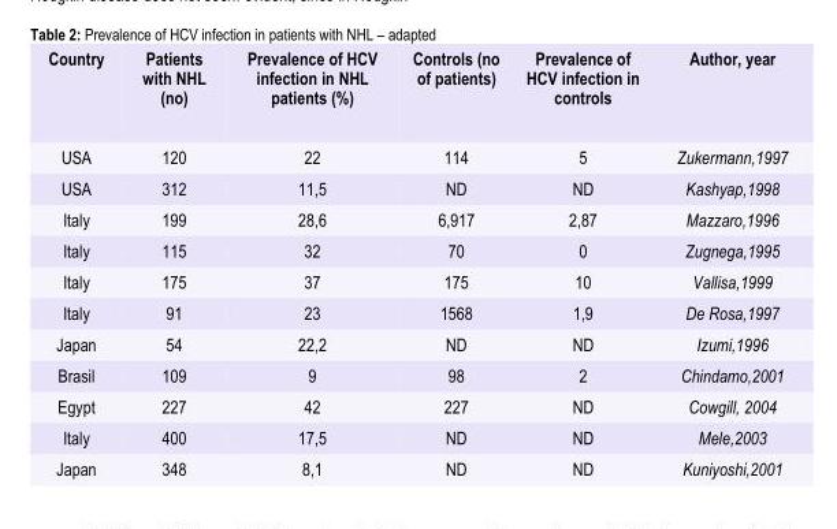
<table><thead><tr><td rowspan="12">Country USA USA Italy Italy Italy Italy Japan Brasil Egypt Italy Japan</td><td rowspan="12">Patients with NHL (no) 120 312 199 115 175 91 54 109 227 400 348</td><td rowspan="12">Prevalence of HCV infection in NHL patients (%) 22 11,5 28,6 32 37 23 22,2 9 42 17,5 8,1</td><td rowspan="12">Controls (no of patients) 114 ND 6,917 70 175 1568 ND 98 227 ND ND</td><td rowspan="12">Prevalence of HCV infection in controls 5 ND 2,87 0 10 1,9 ND 2 ND ND ND</td><td rowspan="12">Author, year Zukermann,1997 Kashyap,1998 Mazzaro,1996 Zugnega,1995 Vallisa,1999 De Rosa,1997 Izumi,1996 Chindamo,2001 Cowgill, 2004 Mele,2003 Kuniyoshi,2001</td></tr><tr></tr><tr></tr><tr></tr><tr></tr><tr></tr><tr></tr><tr></tr><tr></tr><tr></tr><tr></tr><tr></tr></thead><tbody></tbody></table>